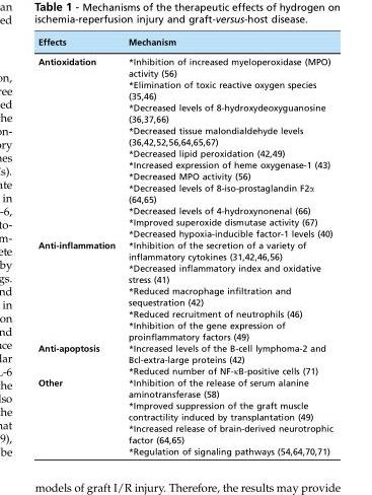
<table><thead><tr><td>Effects</td><td>Mechanism</td></tr></thead><tbody><tr><td rowspan="11">Antioxidation</td><td>*Inhibition of increased myeloperoxidase (MPO) activity (56)</td></tr><tr><td>*Elimination of toxic reactive oxygen species (35,46)</td></tr><tr><td>*Decreased levels of 8-hydroxydeoxyguanosine (36,37,66)</td></tr><tr><td>*Decreased tissue malondialdehyde levels (36,42,52,56,64,65,67)</td></tr><tr><td>*Decreased lipid peroxidation (42,49)</td></tr><tr><td>*Increased expression of heme oxygenase-1 (43)</td></tr><tr><td>*Decreased MPO activity (56)</td></tr><tr><td>*Decreased levels of 8-iso-prostaglandin F2a (64,65)</td></tr><tr><td>*Decreased levels of 4-hydroxynonenal (66)</td></tr><tr><td>*Improved superoxide dismutase activity (67)</td></tr><tr><td>*Decreased hypoxia-inducible factor-1 levels (40)</td></tr><tr><td rowspan="5">Anti-inflammation</td><td>*Inhibition of the secretion of a variety of inflammatory cytokines (31,42,46,56)</td></tr><tr><td>*Decreased inflammatory index and oxidative stress (41)</td></tr><tr><td>*Reduced macrophage infiltration and sequestration (42)</td></tr><tr><td>*Reduced recruitment of neutrophils (46)</td></tr><tr><td>*Inhibition of the gene expression of proinflammatory factors (49)</td></tr><tr><td rowspan="2">Anti-apoptosis</td><td>*Increased levels of the B-cell lymphoma-2 and Bcl-extra-large proteins (42)</td></tr><tr><td>*Reduced number of NF-kB-positive cells (71)</td></tr><tr><td rowspan="4">Other</td><td>*Inhibition of the release of serum alanine aminotransferase (58)</td></tr><tr><td>*Improved suppression of the graft muscle contractility induced by transplantation (49)</td></tr><tr><td>*Increased release of brain-derived neurotrophic factor (64,65)</td></tr><tr><td>*Regulation of signaling pathways (54,64,70,71)</td></tr></tbody></table>